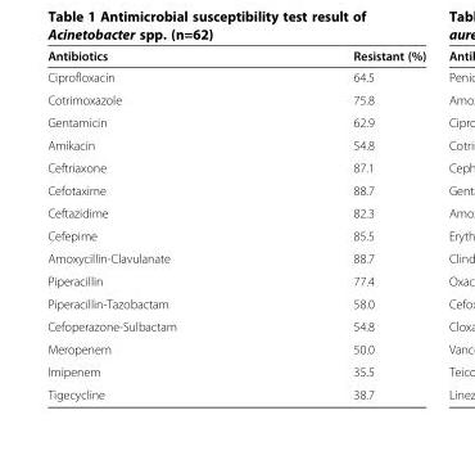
<table><thead><tr><td>Antibiotics</td><td>Resistant (%)</td></tr></thead><tbody><tr><td>Ciprofloxacin</td><td>64.5</td></tr><tr><td>Cotrimoxazole</td><td>75.8</td></tr><tr><td>Gentamicin</td><td>62.9</td></tr><tr><td>Amikacin</td><td>54.8</td></tr><tr><td>Ceftriaxone</td><td>87.1</td></tr><tr><td>Cefotaxime</td><td>88.7</td></tr><tr><td>Ceftazidime</td><td>82.3</td></tr><tr><td>Cefepime</td><td>85.5</td></tr><tr><td>Amoxycillin-Clavulanate</td><td>88.7</td></tr><tr><td>Piperacillin</td><td>77.4</td></tr><tr><td>Piperacillin-Tazobactam</td><td>58.0</td></tr><tr><td>Cefoperazone-Sulbactam</td><td>54.8</td></tr><tr><td>Meropenem</td><td>50.0</td></tr><tr><td>Imipenem</td><td>35.5</td></tr><tr><td>Tigecycline</td><td>38.7</td></tr></tbody></table>